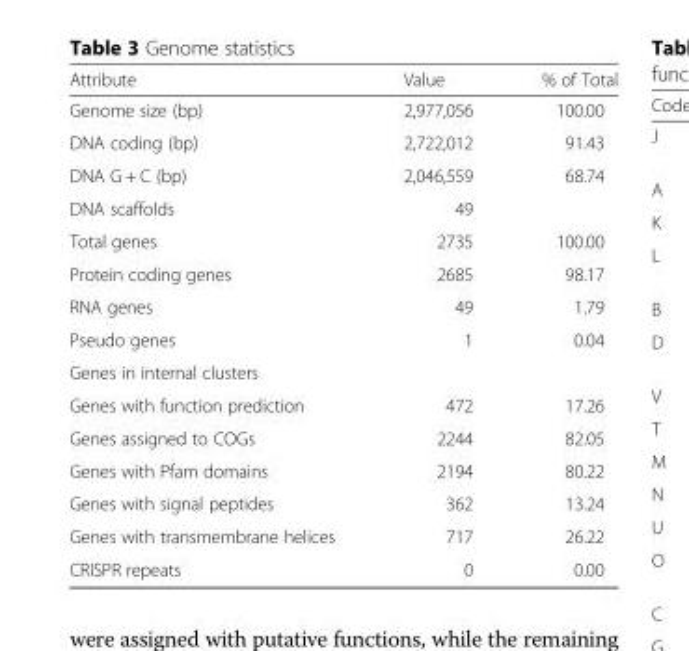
<table><thead><tr><td>Attribute</td><td>Value</td><td>% of Total</td></tr></thead><tbody><tr><td>Genome size (bp)</td><td>2,977,056</td><td>100.00</td></tr><tr><td>DNA coding (bp)</td><td>2,722,012</td><td>91.43</td></tr><tr><td>DNA G + C (bp)</td><td>2,046,559</td><td>68.74</td></tr><tr><td>DNA scaffolds</td><td>49</td><td></td></tr><tr><td>Total genes</td><td>2735</td><td>100.00</td></tr><tr><td>Protein coding genes</td><td>2685</td><td>98.17</td></tr><tr><td>RNA genes</td><td>49</td><td>1.79</td></tr><tr><td>Pseudo genes</td><td>1</td><td>0.04</td></tr><tr><td colspan="3">Genes in internal clusters</td></tr><tr><td>Genes with function prediction</td><td>472</td><td>17.26</td></tr><tr><td>Genes assigned to COGs</td><td>2244</td><td>82.05</td></tr><tr><td>Genes with Pfam domains</td><td>2194</td><td>80.22</td></tr><tr><td>Genes with signal peptides</td><td>362</td><td>13.24</td></tr><tr><td>Genes with transmembrane helices</td><td>717</td><td>26.22</td></tr><tr><td>CRISPR repeats</td><td>0</td><td>0.00</td></tr></tbody></table>